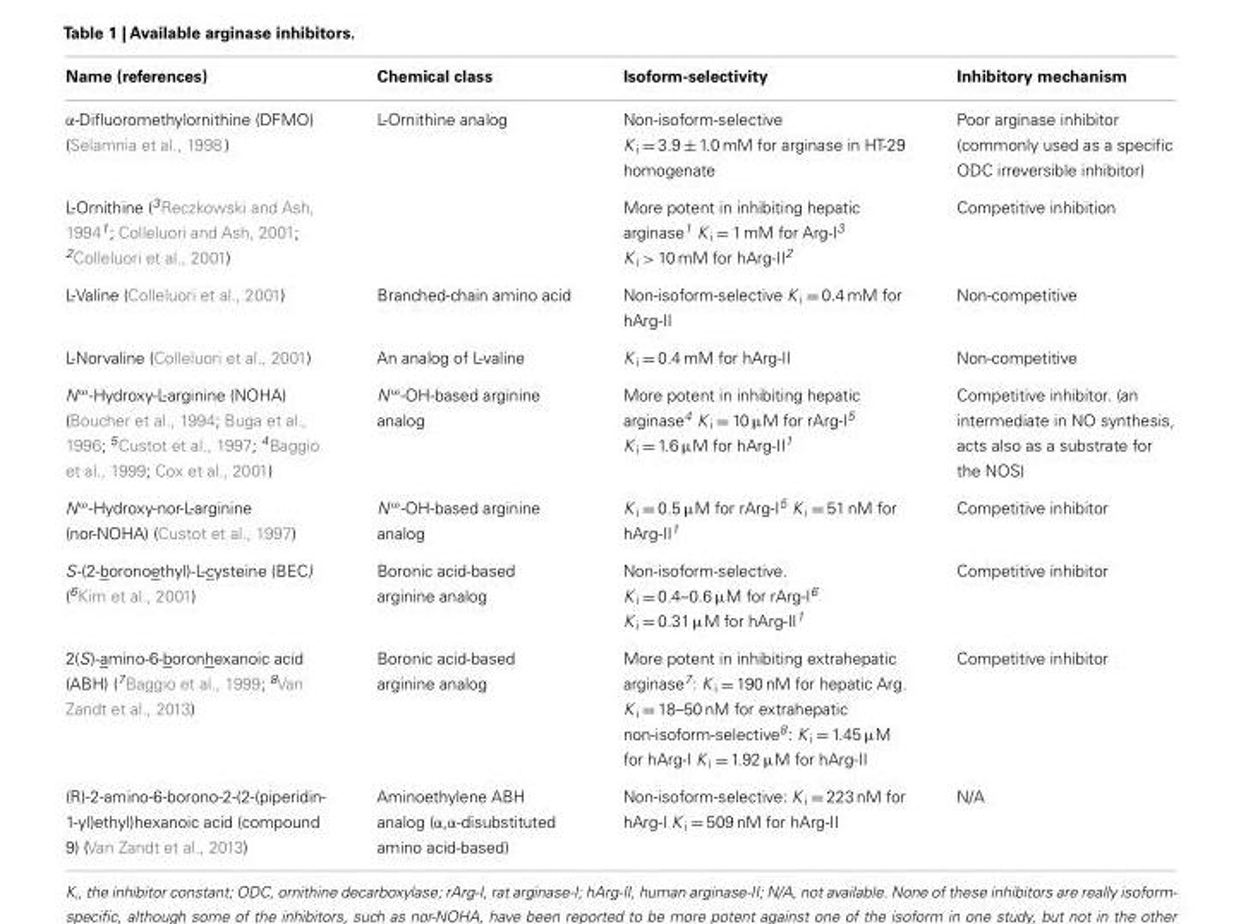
<table><thead><tr><td>Name (references)</td><td>Chemical class</td><td>Isoform-selectivity</td><td>Inhibitory mechanism</td></tr></thead><tbody><tr><td>α-Difluoromethylornithine (DFMO) (Selamnia et al., 1998 )</td><td>L-Ornithine analog</td><td>Non-isoform-selective K <sub>i</sub> = 3.9 ± 1.0 mM for arginase in HT-29 homogenate</td><td>Poor arginase inhibitor (commonly used as a specific ODC irreversible inhibitor)</td></tr><tr><td>L-Ornithine (3Reczkowski and Ash, 19941; Colleluori and Ash, 2001; 2Colleluori et al., 2001)</td><td></td><td>More potent in inhibiting hepatic arginase1 K i = 1 mM for Arg-I3 K i &gt; 10 mM for hArg-II2</td><td>Competitive inhibition</td></tr><tr><td>L-Valine (Colleluori et al., 2001)</td><td>Branched-chain amino acid</td><td>Non-isoform-selective K <sub>i</sub> = 0.4 mM for hArg-II</td><td>Non-competitive</td></tr><tr><td>L-Norvaline (Colleluori et al., 2001)</td><td>An analog of L-valine</td><td>K <sub>i</sub> = 0.4 mM for hArg-II</td><td>Non-competitive</td></tr><tr><td>Nω-Hydroxy-L-arginine (NOHA) (Boucher et al., 1994; Buga et al., 1996; 5Custot et al., 1997; 4Baggio et al., 1999; Cox et al., 2001)</td><td>N<sup>ω</sup>-OH-based arginine analog</td><td>More potent in inhibiting hepatic arginase4 K i = 10 µM for rArg-I5 K i = 1.6 µM for hArg-II1</td><td>Competitive inhibitor. (an intermediate in NO synthesis, acts also as a substrate for the NOS)</td></tr><tr><td>N<sup>ω</sup>-Hydroxy-nor-L-arginine (nor-NOHA) (Custot et al., 1997)</td><td>N<sup>ω</sup>-OH-based arginine analog</td><td>K i = 0.5 µM for rArg-I5 K i = 51 nM for hArg-II1</td><td>Competitive inhibitor</td></tr><tr><td>S-(2-boronoethyl)-L-cysteine (BEC) (<sup>6</sup>Kim et al., 2001)</td><td>Boronic acid-based arginine analog</td><td>Non-isoform-selective. K i = 0.4–0.6 µM for rArg-I6 K i = 0.31 µM for hArg-II1</td><td>Competitive inhibitor</td></tr><tr><td>2(S)-amino-6-boronhexanoic acid (ABH) (<sup>7</sup>Baggio et al., 1999; <sup>8</sup>Van Zandt et al., 2013)</td><td>Boronic acid-based arginine analog</td><td>More potent in inhibiting extrahepatic arginase7: K i = 190 nM for hepatic Arg. K i = 18–50 nM for extrahepatic non-isoform-selective8: K i = 1.45 µM for hArg-I K i = 1.92 µM for hArg-II</td><td>Competitive inhibitor</td></tr><tr><td>(R)-2-amino-6-borono-2-(2-(piperidin- 1-yl)ethyl)hexanoic acid (compound 9) (Van Zandt et al., 2013)</td><td>Aminoethylene ABH analog (α,α-disubstituted amino acid-based)</td><td>Non-isoform-selective: K <sub>i</sub> = 223 nM for hArg-I K <sub>i</sub> = 509 nM for hArg-II</td><td>N/A</td></tr></tbody></table>